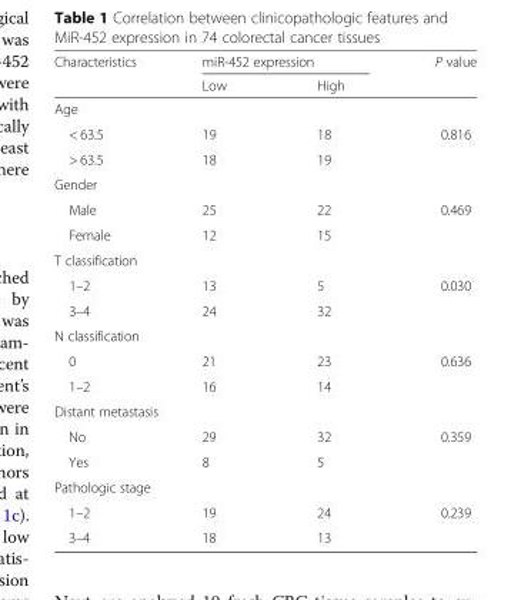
<table><thead><tr><td rowspan="2">Characteristics</td><td colspan="2">miR-452 expression</td><td rowspan="2">P value</td></tr><tr><td>Low</td><td>High</td></tr></thead><tbody><tr><td colspan="4">Age</td></tr><tr><td>&lt; 63.5</td><td>19</td><td>18</td><td>0.816</td></tr><tr><td>&gt; 63.5</td><td>18</td><td>19</td><td></td></tr><tr><td colspan="4">Gender</td></tr><tr><td>Male</td><td>25</td><td>22</td><td>0.469</td></tr><tr><td>Female</td><td>12</td><td>15</td><td></td></tr><tr><td colspan="4">T classification</td></tr><tr><td>1–2</td><td>13</td><td>5</td><td>0.030</td></tr><tr><td>3–4</td><td>24</td><td>32</td><td></td></tr><tr><td colspan="4">N classification</td></tr><tr><td>0</td><td>21</td><td>23</td><td>0.636</td></tr><tr><td>1–2</td><td>16</td><td>14</td><td></td></tr><tr><td colspan="4">Distant metastasis</td></tr><tr><td>No</td><td>29</td><td>32</td><td>0.359</td></tr><tr><td>Yes</td><td>8</td><td>5</td><td></td></tr><tr><td colspan="4">Pathologic stage</td></tr><tr><td>1–2</td><td>19</td><td>24</td><td>0.239</td></tr><tr><td>3–4</td><td>18</td><td>13</td><td></td></tr></tbody></table>